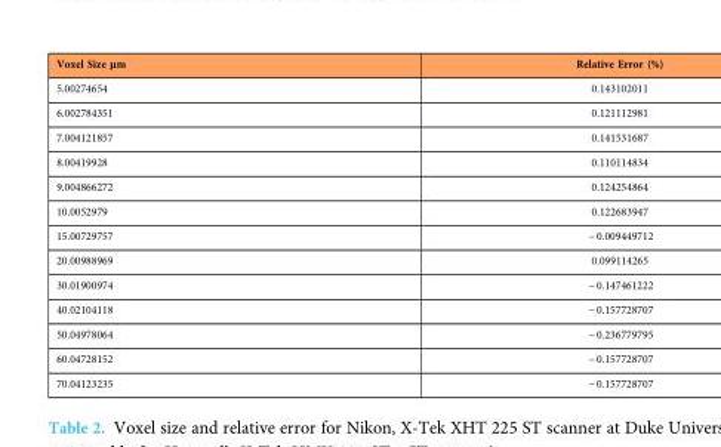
<table><thead><tr><td>Voxel Size μm</td><td>Relative Error (%)</td></tr></thead><tbody><tr><td>5.00274654</td><td>0.143102011</td></tr><tr><td>6.002784351</td><td>0.121112981</td></tr><tr><td>7.004121857</td><td>0.141531687</td></tr><tr><td>8.00419928</td><td>0.110114834</td></tr><tr><td>9.004866272</td><td>0.124254864</td></tr><tr><td>10.0052979</td><td>0.122683947</td></tr><tr><td>15.00729757</td><td>− 0.009449712</td></tr><tr><td>20.00988969</td><td>0.099114265</td></tr><tr><td>30.01900974</td><td>− 0.147461222</td></tr><tr><td>40.02104118</td><td>− 0.157728707</td></tr><tr><td>50.04978064</td><td>− 0.236779795</td></tr><tr><td>60.04728152</td><td>− 0.157728707</td></tr><tr><td>70.04123235</td><td>− 0.157728707</td></tr></tbody></table>